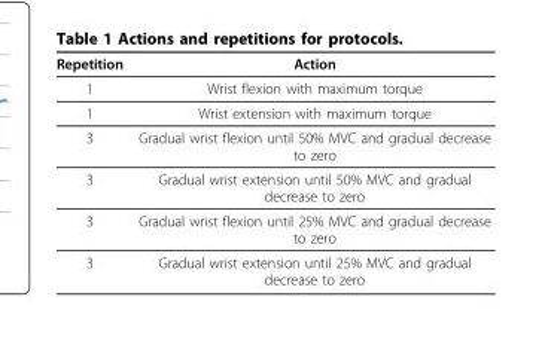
<table><thead><tr><td>Repetition</td><td>Action</td></tr></thead><tbody><tr><td>1</td><td>Wrist flexion with maximum torque</td></tr><tr><td>1</td><td>Wrist extension with maximum torque</td></tr><tr><td>3</td><td>Gradual wrist flexion until 50% MVC and gradual decrease to zero</td></tr><tr><td>3</td><td>Gradual wrist extension until 50% MVC and gradual decrease to zero</td></tr><tr><td>3</td><td>Gradual wrist flexion until 25% MVC and gradual decrease to zero</td></tr><tr><td>3</td><td>Gradual wrist extension until 25% MVC and gradual decrease to zero</td></tr></tbody></table>